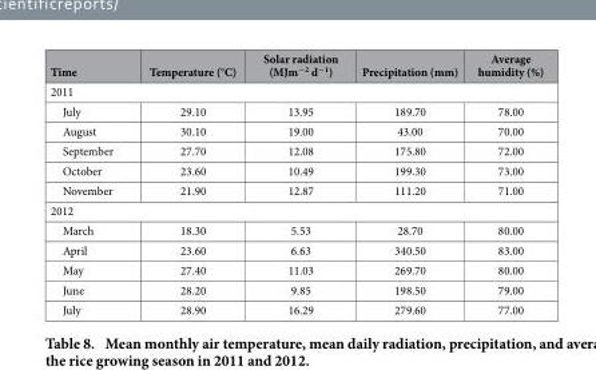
<table><thead><tr><td>Time</td><td>Temperature (°C)</td><td>Solar radiation (MJm<sup>−2</sup> d<sup>−1</sup>)</td><td>Precipitation (mm)</td><td>Average humidity (%)</td></tr></thead><tbody><tr><td colspan="5">2011</td></tr><tr><td>July</td><td>29.10</td><td>13.95</td><td>189.70</td><td>78.00</td></tr><tr><td>August</td><td>30.10</td><td>19.00</td><td>43.00</td><td>70.00</td></tr><tr><td>September</td><td>27.70</td><td>12.08</td><td>175.80</td><td>72.00</td></tr><tr><td>October</td><td>23.60</td><td>10.49</td><td>199.30</td><td>73.00</td></tr><tr><td>November</td><td>21.90</td><td>12.87</td><td>111.20</td><td>71.00</td></tr><tr><td colspan="5">2012</td></tr><tr><td>March</td><td>18.30</td><td>5.53</td><td>28.70</td><td>80.00</td></tr><tr><td>April</td><td>23.60</td><td>6.63</td><td>340.50</td><td>83.00</td></tr><tr><td>May</td><td>27.40</td><td>11.03</td><td>269.70</td><td>80.00</td></tr><tr><td>June</td><td>28.20</td><td>9.85</td><td>198.50</td><td>79.00</td></tr><tr><td>July</td><td>28.90</td><td>16.29</td><td>279.60</td><td>77.00</td></tr></tbody></table>